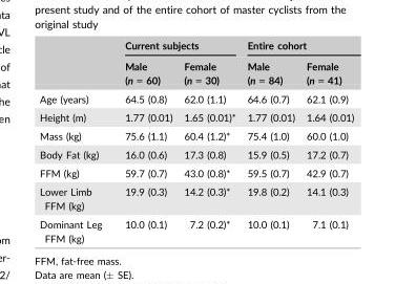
<table><thead><tr><td rowspan="2"></td><td colspan="2">Current subjects</td><td colspan="2">Entire cohort</td></tr><tr><td>Male (n = 60)</td><td>Female (n = 30)</td><td>Male (n = 84)</td><td>Female (n = 41)</td></tr></thead><tbody><tr><td>Age (years)</td><td>64.5 (0.8)</td><td>62.0 (1.1)</td><td>64.6 (0.7)</td><td>62.1 (0.9)</td></tr><tr><td>Height (m)</td><td>1.77 (0.01)</td><td>1.65 (0.01)*</td><td>1.77 (0.01)</td><td>1.64 (0.01)</td></tr><tr><td>Mass (kg)</td><td>75.6 (1.1)</td><td>60.4 (1.2)*</td><td>75.4 (1.0)</td><td>60.0 (1.0)</td></tr><tr><td>Body Fat (kg)</td><td>16.0 (0.6)</td><td>17.3 (0.8)</td><td>15.9 (0.5)</td><td>17.2 (0.7)</td></tr><tr><td>FFM (kg)</td><td>59.7 (0.7)</td><td>43.0 (0.8)*</td><td>59.5 (0.7)</td><td>42.9 (0.7)</td></tr><tr><td>Lower Limb FFM (kg)</td><td>19.9 (0.3)</td><td>14.2 (0.3)*</td><td>19.8 (0.2)</td><td>14.1 (0.3)</td></tr><tr><td>Dominant Leg FFM (kg)</td><td>10.0 (0.1)</td><td>7.2 (0.2)*</td><td>10.0 (0.1)</td><td>7.1 (0.1)</td></tr></tbody></table>